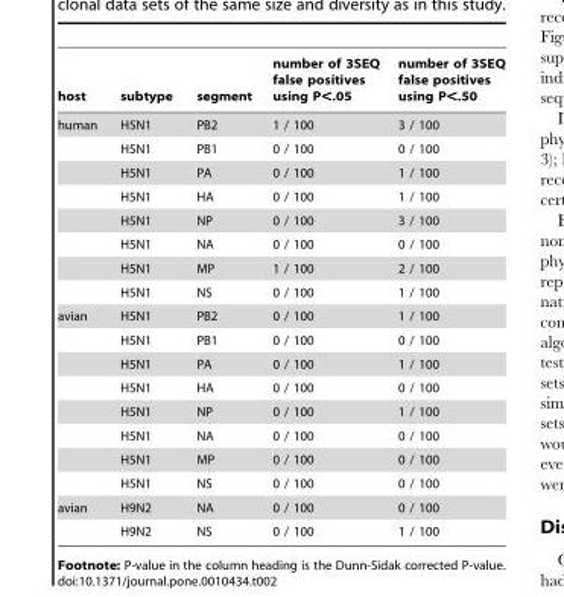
<table><thead><tr><td>host</td><td>subtype</td><td>segment</td><td>number of 3SEQ false positives using P&lt;.05</td><td>number of 3SEQ false positives using P&lt;.50</td></tr></thead><tbody><tr><td rowspan="8">human</td><td>H5N1</td><td>PB2</td><td>1 / 100</td><td>3 / 100</td></tr><tr><td>H5N1</td><td>PB1</td><td>0 / 100</td><td>0 / 100</td></tr><tr><td>H5N1</td><td>PA</td><td>0 / 100</td><td>1 / 100</td></tr><tr><td>H5N1</td><td>HA</td><td>0 / 100</td><td>1 / 100</td></tr><tr><td>H5N1</td><td>NP</td><td>0 / 100</td><td>3 / 100</td></tr><tr><td>H5N1</td><td>NA</td><td>0 / 100</td><td>0 / 100</td></tr><tr><td>H5N1</td><td>MP</td><td>1 / 100</td><td>2 / 100</td></tr><tr><td>H5N1</td><td>NS</td><td>0 / 100</td><td>1 / 100</td></tr><tr><td rowspan="8">avian</td><td>H5N1</td><td>PB2</td><td>0 / 100</td><td>1 / 100</td></tr><tr><td>H5N1</td><td>PB1</td><td>0 / 100</td><td>0 / 100</td></tr><tr><td>H5N1</td><td>PA</td><td>0 / 100</td><td>1 / 100</td></tr><tr><td>H5N1</td><td>HA</td><td>0 / 100</td><td>0 / 100</td></tr><tr><td>H5N1</td><td>NP</td><td>0 / 100</td><td>1 / 100</td></tr><tr><td>H5N1</td><td>NA</td><td>0 / 100</td><td>0 / 100</td></tr><tr><td>H5N1</td><td>MP</td><td>0 / 100</td><td>0 / 100</td></tr><tr><td>H5N1</td><td>NS</td><td>0 / 100</td><td>0 / 100</td></tr><tr><td rowspan="2">avian</td><td>H9N2</td><td>NA</td><td>0 / 100</td><td>0 / 100</td></tr><tr><td>H9N2</td><td>NS</td><td>0 / 100</td><td>1 / 100</td></tr></tbody></table>